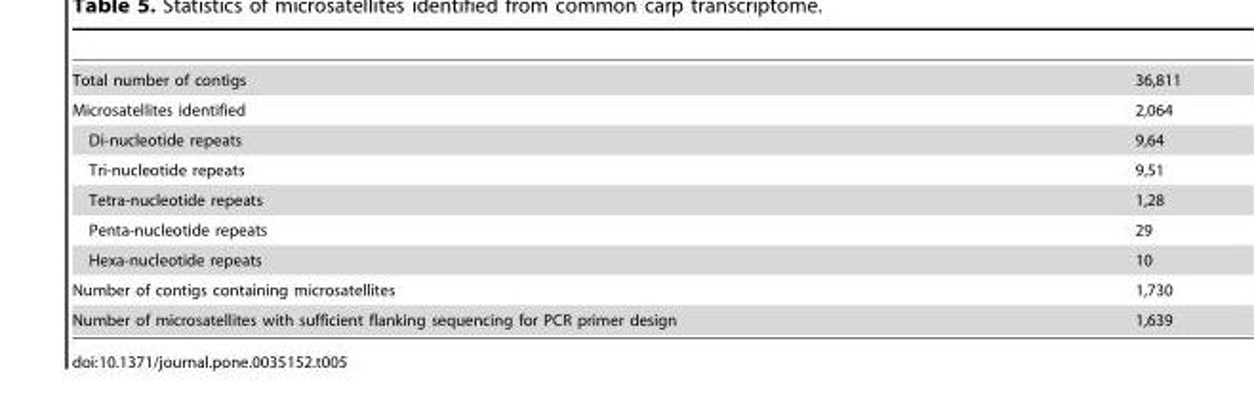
<table><tbody><tr><td>Total number of contigs</td><td>36,811</td></tr><tr><td>Microsatellites identified</td><td>2,064</td></tr><tr><td>Di-nucleotide repeats</td><td>9,64</td></tr><tr><td>Tri-nucleotide repeats</td><td>9,51</td></tr><tr><td>Tetra-nucleotide repeats</td><td>1,28</td></tr><tr><td>Penta-nucleotide repeats</td><td>29</td></tr><tr><td>Hexa-nucleotide repeats</td><td>10</td></tr><tr><td>Number of contigs containing microsatellites</td><td>1,730</td></tr><tr><td>Number of microsatellites with sufficient flanking sequencing for PCR primer design</td><td>1,639</td></tr></tbody></table>